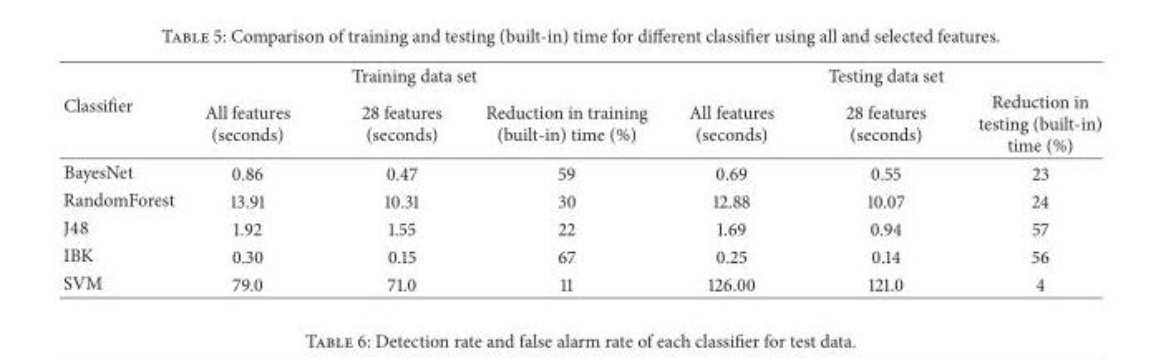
<table><thead><tr><td rowspan="2">Classifier</td><td colspan="3">Training data set</td><td colspan="3">Testing data set</td></tr><tr><td>All features (seconds)</td><td>28 features (seconds)</td><td>Reduction in training (built-in) time (%)</td><td>All features (seconds)</td><td>28 features (seconds)</td><td>Reduction in testing (built-in) time (%)</td></tr></thead><tbody><tr><td>BayesNet</td><td>0.86</td><td>0.47</td><td>59</td><td>0.69</td><td>0.55</td><td>23</td></tr><tr><td>RandomForest</td><td>13.91</td><td>10.31</td><td>30</td><td>12.88</td><td>10.07</td><td>24</td></tr><tr><td>J48</td><td>1.92</td><td>1.55</td><td>22</td><td>1.69</td><td>0.94</td><td>57</td></tr><tr><td>IBK</td><td>0.30</td><td>0.15</td><td>67</td><td>0.25</td><td>0.14</td><td>56</td></tr><tr><td>SVM</td><td>79.0</td><td>71.0</td><td>11</td><td>126.00</td><td>121.0</td><td>4</td></tr></tbody></table>